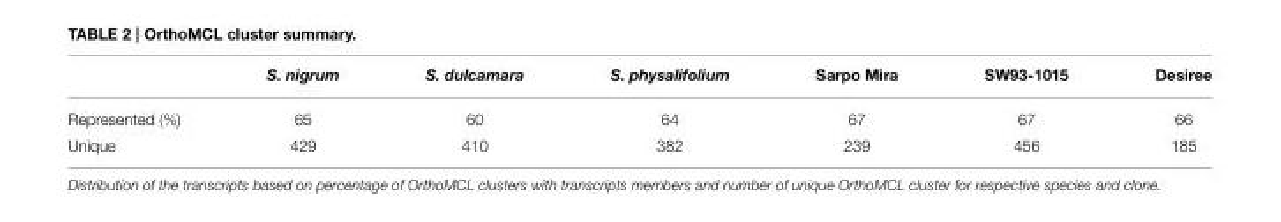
<table><thead><tr><td></td><td>S. nigrum</td><td>S. dulcamara</td><td>S. physalifolium</td><td>Sarpo Mira</td><td>SW93-1015</td><td>Desiree</td></tr></thead><tbody><tr><td>Represented (%)</td><td>65</td><td>60</td><td>64</td><td>67</td><td>67</td><td>66</td></tr><tr><td>Unique</td><td>429</td><td>410</td><td>382</td><td>239</td><td>456</td><td>185</td></tr></tbody></table>